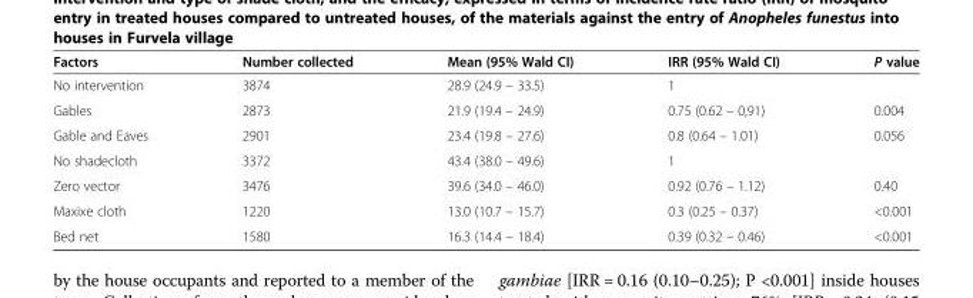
<table><thead><tr><td>Factors</td><td>Number collected</td><td>Mean (95% Wald CI)</td><td>IRR (95% Wald CI)</td><td>P value</td></tr></thead><tbody><tr><td>No intervention</td><td>3874</td><td>28.9 (24.9 – 33.5)</td><td>1</td><td></td></tr><tr><td>Gables</td><td>2873</td><td>21.9 (19.4 – 24.9)</td><td>0.75 (0.62 – 0,91)</td><td>0.004</td></tr><tr><td>Gable and Eaves</td><td>2901</td><td>23.4 (19.8 – 27.6)</td><td>0.8 (0.64 – 1.01)</td><td>0.056</td></tr><tr><td>No shadecloth</td><td>3372</td><td>43.4 (38.0 – 49.6)</td><td>1</td><td></td></tr><tr><td>Zero vector</td><td>3476</td><td>39.6 (34.0 – 46.0)</td><td>0.92 (0.76 – 1.12)</td><td>0.40</td></tr><tr><td>Maxixe cloth</td><td>1220</td><td>13.0 (10.7 – 15.7)</td><td>0.3 (0.25 – 0.37)</td><td>&lt;0.001</td></tr><tr><td>Bed net</td><td>1580</td><td>16.3 (14.4 – 18.4)</td><td>0.39 (0.32 – 0.46)</td><td>&lt;0.001</td></tr></tbody></table>